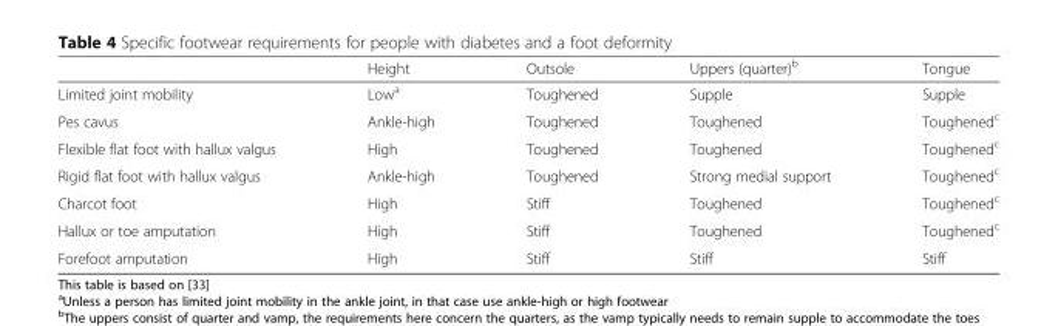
<table><thead><tr><td></td><td>Height</td><td>Outsole</td><td>Uppers (quarter)<sup>b</sup></td><td>Tongue</td></tr></thead><tbody><tr><td>Limited joint mobility</td><td>Low<sup>a</sup></td><td>Toughened</td><td>Supple</td><td>Supple</td></tr><tr><td>Pes cavus</td><td>Ankle-high</td><td>Toughened</td><td>Toughened</td><td>Toughened<sup>c</sup></td></tr><tr><td>Flexible flat foot with hallux valgus</td><td>High</td><td>Toughened</td><td>Toughened</td><td>Toughened<sup>c</sup></td></tr><tr><td>Rigid flat foot with hallux valgus</td><td>Ankle-high</td><td>Toughened</td><td>Strong medial support</td><td>Toughened<sup>c</sup></td></tr><tr><td>Charcot foot</td><td>High</td><td>Stiff</td><td>Toughened</td><td>Toughened<sup>c</sup></td></tr><tr><td>Hallux or toe amputation</td><td>High</td><td>Stiff</td><td>Toughened</td><td>Toughened<sup>c</sup></td></tr><tr><td>Forefoot amputation</td><td>High</td><td>Stiff</td><td>Stiff</td><td>Stiff</td></tr></tbody></table>